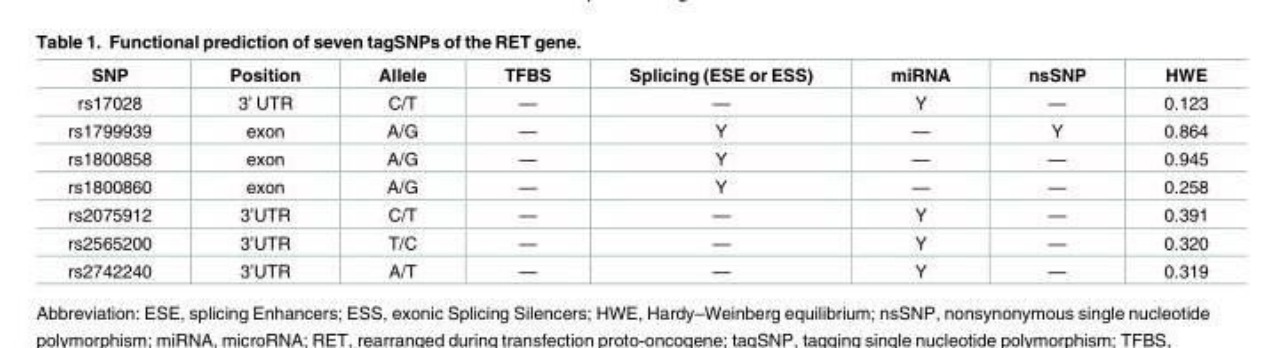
<table><thead><tr><td>SNP</td><td>Position</td><td>Allele</td><td>TFBS</td><td>Splicing (ESE or ESS)</td><td>miRNA</td><td>nsSNP</td><td>HWE</td></tr></thead><tbody><tr><td>rs17028</td><td>3’ UTR</td><td>C/T</td><td>—</td><td>—</td><td>Y</td><td>—</td><td>0.123</td></tr><tr><td>rs1799939</td><td>exon</td><td>A/G</td><td>—</td><td>Y</td><td>—</td><td>Y</td><td>0.864</td></tr><tr><td>rs1800858</td><td>exon</td><td>A/G</td><td>—</td><td>Y</td><td>—</td><td>—</td><td>0.945</td></tr><tr><td>rs1800860</td><td>exon</td><td>A/G</td><td>—</td><td>Y</td><td>—</td><td>—</td><td>0.258</td></tr><tr><td>rs2075912</td><td>3’UTR</td><td>C/T</td><td>—</td><td>—</td><td>Y</td><td>—</td><td>0.391</td></tr><tr><td>rs2565200</td><td>3’UTR</td><td>T/C</td><td>—</td><td>—</td><td>Y</td><td>—</td><td>0.320</td></tr><tr><td>rs2742240</td><td>3’UTR</td><td>A/T</td><td>—</td><td>—</td><td>Y</td><td>—</td><td>0.319</td></tr></tbody></table>